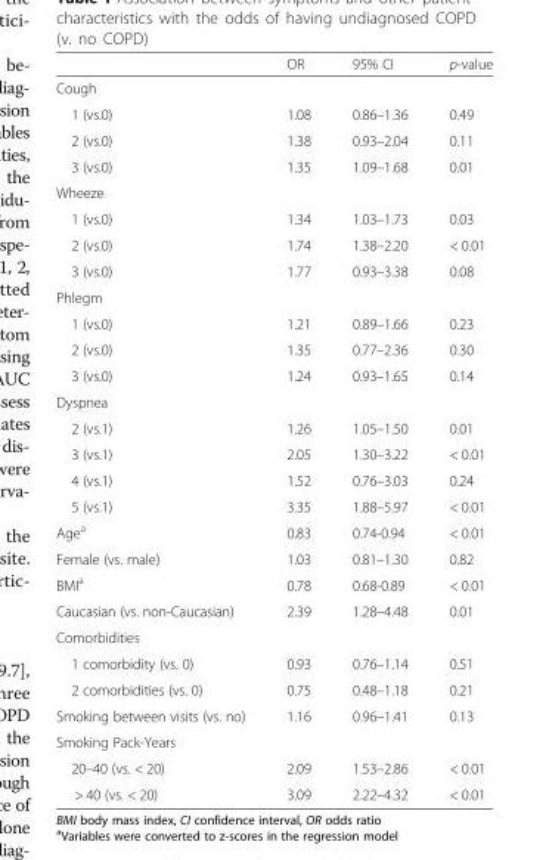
<table><thead><tr><td></td><td>OR</td><td>95% CI</td><td>p-value</td></tr></thead><tbody><tr><td colspan="4">Cough</td></tr><tr><td>1 (vs.0)</td><td>1.08</td><td>0.86–1.36</td><td>0.49</td></tr><tr><td>2 (vs.0)</td><td>1.38</td><td>0.93–2.04</td><td>0.11</td></tr><tr><td>3 (vs.0)</td><td>1.35</td><td>1.09–1.68</td><td>0.01</td></tr><tr><td colspan="4">Wheeze</td></tr><tr><td>1 (vs.0)</td><td>1.34</td><td>1.03–1.73</td><td>0.03</td></tr><tr><td>2 (vs.0)</td><td>1.74</td><td>1.38–2.20</td><td>&lt; 0.01</td></tr><tr><td>3 (vs.0)</td><td>1.77</td><td>0.93–3.38</td><td>0.08</td></tr><tr><td colspan="4">Phlegm</td></tr><tr><td>1 (vs.0)</td><td>1.21</td><td>0.89–1.66</td><td>0.23</td></tr><tr><td>2 (vs.0)</td><td>1.35</td><td>0.77–2.36</td><td>0.30</td></tr><tr><td>3 (vs.0)</td><td>1.24</td><td>0.93–1.65</td><td>0.14</td></tr><tr><td colspan="4">Dyspnea</td></tr><tr><td>2 (vs.1)</td><td>1.26</td><td>1.05–1.50</td><td>0.01</td></tr><tr><td>3 (vs.1)</td><td>2.05</td><td>1.30–3.22</td><td>&lt; 0.01</td></tr><tr><td>4 (vs.1)</td><td>1.52</td><td>0.76–3.03</td><td>0.24</td></tr><tr><td>5 (vs.1)</td><td>3.35</td><td>1.88–5.97</td><td>&lt; 0.01</td></tr><tr><td>Age<sup>a</sup></td><td>0.83</td><td>0.74-0.94</td><td>&lt; 0.01</td></tr><tr><td>Female (vs. male)</td><td>1.03</td><td>0.81–1.30</td><td>0.82</td></tr><tr><td>BMI<sup>a</sup></td><td>0.78</td><td>0.68-0.89</td><td>&lt; 0.01</td></tr><tr><td>Caucasian (vs. non-Caucasian)</td><td>2.39</td><td>1.28–4.48</td><td>0.01</td></tr><tr><td colspan="4">Comorbidities</td></tr><tr><td>1 comorbidity (vs. 0)</td><td>0.93</td><td>0.76–1.14</td><td>0.51</td></tr><tr><td>2 comorbidities (vs. 0)</td><td>0.75</td><td>0.48–1.18</td><td>0.21</td></tr><tr><td>Smoking between visits (vs. no)</td><td>1.16</td><td>0.96–1.41</td><td>0.13</td></tr><tr><td colspan="4">Smoking Pack-Years</td></tr><tr><td>20–40 (vs. &lt; 20)</td><td>2.09</td><td>1.53–2.86</td><td>&lt; 0.01</td></tr><tr><td>&gt; 40 (vs. &lt; 20)</td><td>3.09</td><td>2.22–4.32</td><td>&lt; 0.01</td></tr></tbody></table>